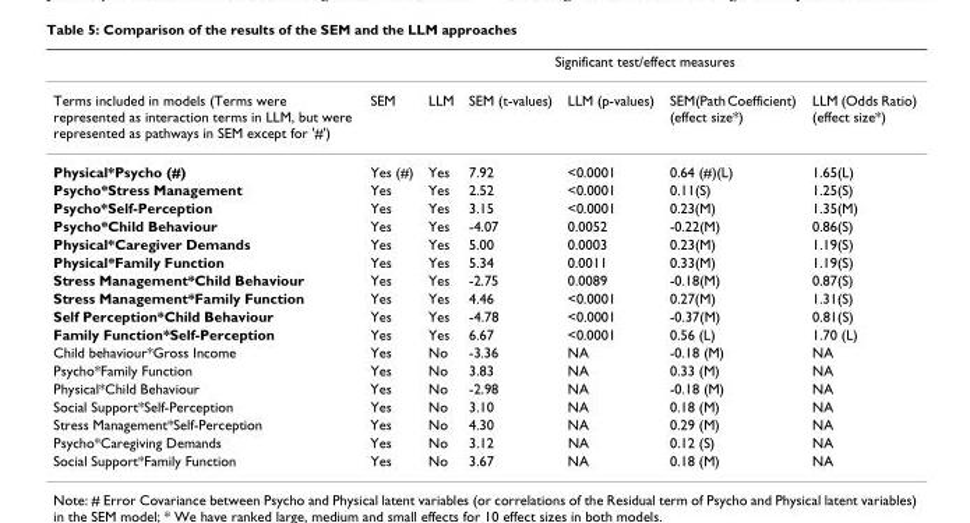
<table><thead><tr><td rowspan="2">Terms included in models (Terms were represented as interaction terms in LLM, but were represented as pathways in SEM except for &#x27;#&#x27;)</td><td colspan="6">Significant test/effect measures</td></tr><tr><td>SEM</td><td>LLM</td><td>SEM (t-values)</td><td>LLM (p-values)</td><td>SEM(Path Coefficient) (effect size*)</td><td>LLM (Odds Ratio) (effect size*)</td></tr></thead><tbody><tr><td>Physical*Psycho (#)</td><td>Yes (#)</td><td>Yes</td><td>7.92</td><td>&lt;0.0001</td><td>0.64 (#)(L)</td><td>1.65(L)</td></tr><tr><td>Psycho*Stress Management</td><td>Yes</td><td>Yes</td><td>2.52</td><td>&lt;0.0001</td><td>0.11(S)</td><td>1.25(S)</td></tr><tr><td>Psycho*Self-Perception</td><td>Yes</td><td>Yes</td><td>3.15</td><td>&lt;0.0001</td><td>0.23(M)</td><td>1.35(M)</td></tr><tr><td>Psycho*Child Behaviour</td><td>Yes</td><td>Yes</td><td>-4.07</td><td>0.0052</td><td>-0.22(M)</td><td>0.86(S)</td></tr><tr><td>Physical*Caregiver Demands</td><td>Yes</td><td>Yes</td><td>5.00</td><td>0.0003</td><td>0.23(M)</td><td>1.19(S)</td></tr><tr><td>Physical*Family Function</td><td>Yes</td><td>Yes</td><td>5.34</td><td>0.0011</td><td>0.33(M)</td><td>1.19(S)</td></tr><tr><td>Stress Management*Child Behaviour</td><td>Yes</td><td>Yes</td><td>-2.75</td><td>0.0089</td><td>-0.18(M)</td><td>0.87(S)</td></tr><tr><td>Stress Management*Family Function</td><td>Yes</td><td>Yes</td><td>4.46</td><td>&lt;0.0001</td><td>0.27(M)</td><td>1.31(S)</td></tr><tr><td>Self Perception*Child Behaviour</td><td>Yes</td><td>Yes</td><td>-4.78</td><td>&lt;0.0001</td><td>-0.37(M)</td><td>0.81(S)</td></tr><tr><td>Family Function*Self-Perception</td><td>Yes</td><td>Yes</td><td>6.67</td><td>&lt;0.0001</td><td>0.56 (L)</td><td>1.70 (L)</td></tr><tr><td>Child behaviour*Gross Income</td><td>Yes</td><td>No</td><td>-3.36</td><td>NA</td><td>-0.18 (M)</td><td>NA</td></tr><tr><td>Psycho*Family Function</td><td>Yes</td><td>No</td><td>3.83</td><td>NA</td><td>0.33 (M)</td><td>NA</td></tr><tr><td>Physical*Child Behaviour</td><td>Yes</td><td>No</td><td>-2.98</td><td>NA</td><td>-0.18 (M)</td><td>NA</td></tr><tr><td>Social Support*Self-Perception</td><td>Yes</td><td>No</td><td>3.10</td><td>NA</td><td>0.18 (M)</td><td>NA</td></tr><tr><td>Stress Management*Self-Perception</td><td>Yes</td><td>No</td><td>4.30</td><td>NA</td><td>0.29 (M)</td><td>NA</td></tr><tr><td>Psycho*Caregiving Demands</td><td>Yes</td><td>No</td><td>3.12</td><td>NA</td><td>0.12 (S)</td><td>NA</td></tr><tr><td>Social Support*Family Function</td><td>Yes</td><td>No</td><td>3.67</td><td>NA</td><td>0.18 (M)</td><td>NA</td></tr></tbody></table>